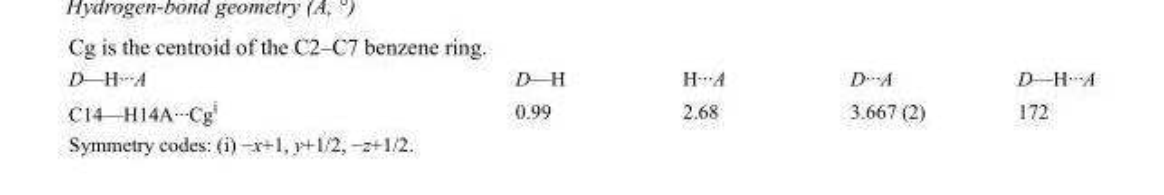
<table><tbody><tr><td>D—H···A</td><td>D—H</td><td>H···A</td><td>D···A</td><td>D—H···A</td></tr><tr><td>C14—H14A···Cg<sup>i</sup></td><td>0.99</td><td>2.68</td><td>3.667 (2)</td><td>172</td></tr></tbody></table>